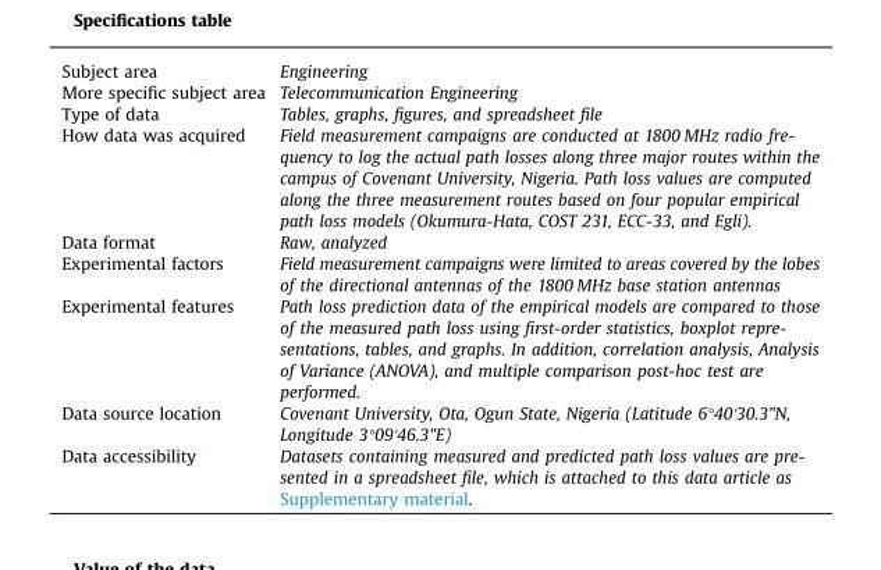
<table><tbody><tr><td>Subject area</td><td>Engineering</td></tr><tr><td>More specific subject area</td><td>Telecommunication Engineering</td></tr><tr><td>Type of data</td><td>Tables, graphs, figures, and spreadsheet file</td></tr><tr><td>How data was acquired</td><td>Field measurement campaigns are conducted at 1800 MHz radio fre- quency to log the actual path losses along three major routes within the campus of Covenant University, Nigeria. Path loss values are computed along the three measurement routes based on four popular empirical path loss models (Okumura-Hata, COST 231, ECC-33, and Egli).</td></tr><tr><td>Data format</td><td>Raw, analyzed</td></tr><tr><td>Experimental factors</td><td>Field measurement campaigns were limited to areas covered by the lobes of the directional antennas of the 1800 MHz base station antennas</td></tr><tr><td>Experimental features</td><td>Path loss prediction data of the empirical models are compared to those of the measured path loss using first-order statistics, boxplot repre- sentations, tables, and graphs. In addition, correlation analysis, Analysis of Variance (ANOVA), and multiple comparison post-hoc test are performed.</td></tr><tr><td>Data source location</td><td>Covenant University, Ota, Ogun State, Nigeria (Latitude 6°40&#x27;30.3&quot;N, Longitude 3°09&#x27;46.3&quot;E)</td></tr><tr><td>Data accessibility</td><td>Datasets containing measured and predicted path loss values are pre- sented in a spreadsheet file, which is attached to this data article as Supplementary material.</td></tr></tbody></table>